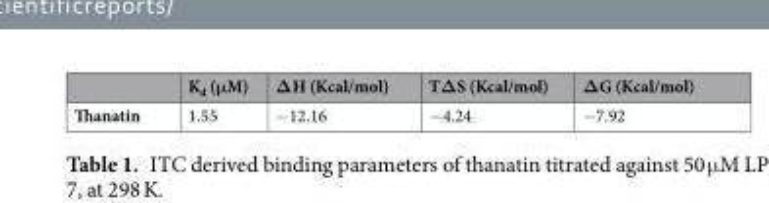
<table><thead><tr><td></td><td>K<sub>d</sub> (μM)</td><td>ΔH (Kcal/mol)</td><td>TΔS (Kcal/mol)</td><td>ΔG (Kcal/mol)</td></tr></thead><tbody><tr><td>Thanatin</td><td>1.55</td><td>−12.16</td><td>−4.24</td><td>−7.92</td></tr></tbody></table>